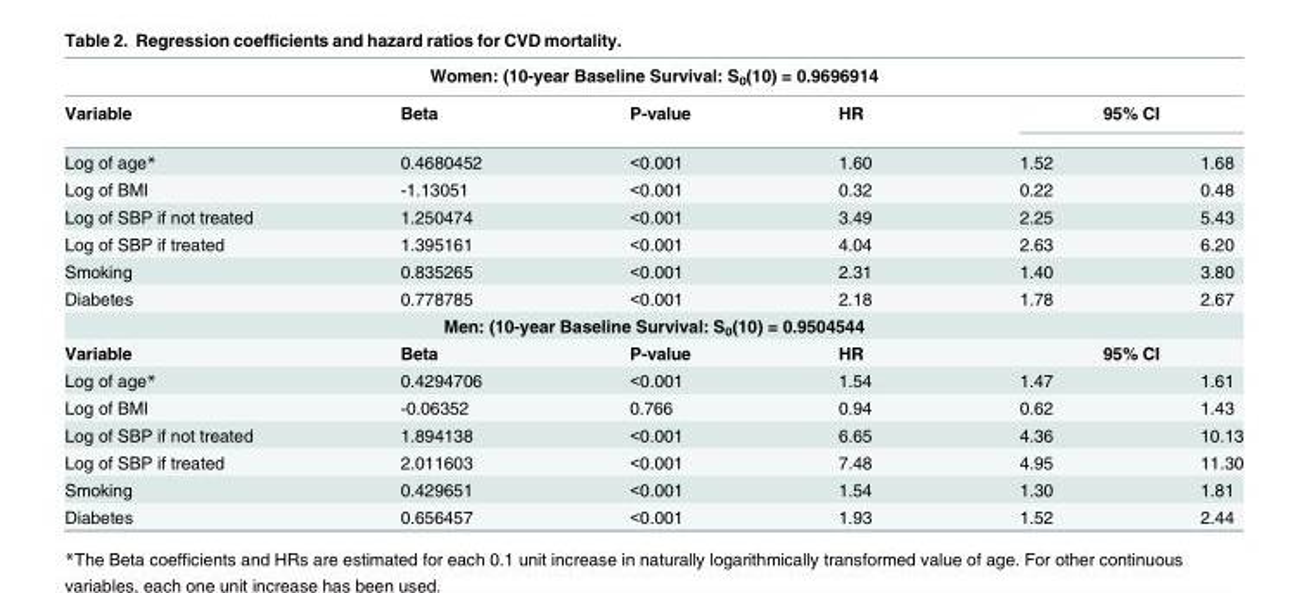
<table><thead><tr><td colspan="6">Women: (10-year Baseline Survival: S<sub>0</sub>(10) = 0.9696914</td></tr><tr><td rowspan="2">Variable Log of age*</td><td rowspan="2">Beta 0.4680452</td><td rowspan="2">P-value &lt;0.001</td><td rowspan="2">HR 1.60</td><td colspan="2">95% CI</td></tr><tr><td>1.52</td><td>1.68</td></tr></thead><tbody><tr><td>Log of BMI</td><td>-1.13051</td><td>&lt;0.001</td><td>0.32</td><td>0.22</td><td>0.48</td></tr><tr><td>Log of SBP if not treated</td><td>1.250474</td><td>&lt;0.001</td><td>3.49</td><td>2.25</td><td>5.43</td></tr><tr><td>Log of SBP if treated</td><td>1.395161</td><td>&lt;0.001</td><td>4.04</td><td>2.63</td><td>6.20</td></tr><tr><td>Smoking</td><td>0.835265</td><td>&lt;0.001</td><td>2.31</td><td>1.40</td><td>3.80</td></tr><tr><td>Diabetes</td><td>0.778785</td><td>&lt;0.001</td><td>2.18</td><td>1.78</td><td>2.67</td></tr><tr><td colspan="6">Men: (10-year Baseline Survival: S<sub>0</sub>(10) = 0.9504544</td></tr><tr><td>Variable</td><td>Beta</td><td>P-value</td><td>HR</td><td colspan="2">95% CI</td></tr><tr><td>Log of age*</td><td>0.4294706</td><td>&lt;0.001</td><td>1.54</td><td>1.47</td><td>1.61</td></tr><tr><td>Log of BMI</td><td>-0.06352</td><td>0.766</td><td>0.94</td><td>0.62</td><td>1.43</td></tr><tr><td>Log of SBP if not treated</td><td>1.894138</td><td>&lt;0.001</td><td>6.65</td><td>4.36</td><td>10.13</td></tr><tr><td>Log of SBP if treated</td><td>2.011603</td><td>&lt;0.001</td><td>7.48</td><td>4.95</td><td>11.30</td></tr><tr><td>Smoking</td><td>0.429651</td><td>&lt;0.001</td><td>1.54</td><td>1.30</td><td>1.81</td></tr><tr><td>Diabetes</td><td>0.656457</td><td>&lt;0.001</td><td>1.93</td><td>1.52</td><td>2.44</td></tr></tbody></table>